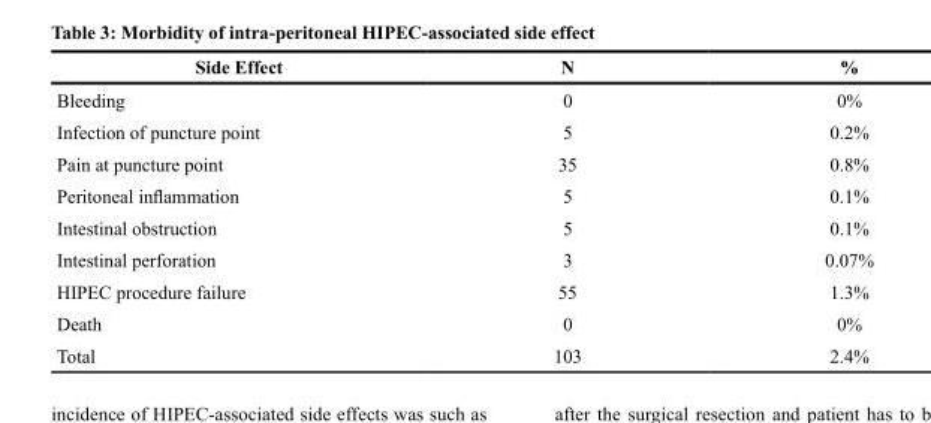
<table><thead><tr><td>Side Effect</td><td>N</td><td>%</td></tr></thead><tbody><tr><td>Bleeding</td><td>0</td><td>0%</td></tr><tr><td>Infection of puncture point</td><td>5</td><td>0.2%</td></tr><tr><td>Pain at puncture point</td><td>35</td><td>0.8%</td></tr><tr><td>Peritoneal inflammation</td><td>5</td><td>0.1%</td></tr><tr><td>Intestinal obstruction</td><td>5</td><td>0.1%</td></tr><tr><td>Intestinal perforation</td><td>3</td><td>0.07%</td></tr><tr><td>HIPEC procedure failure</td><td>55</td><td>1.3%</td></tr><tr><td>Death</td><td>0</td><td>0%</td></tr><tr><td>Total</td><td>103</td><td>2.4%</td></tr></tbody></table>